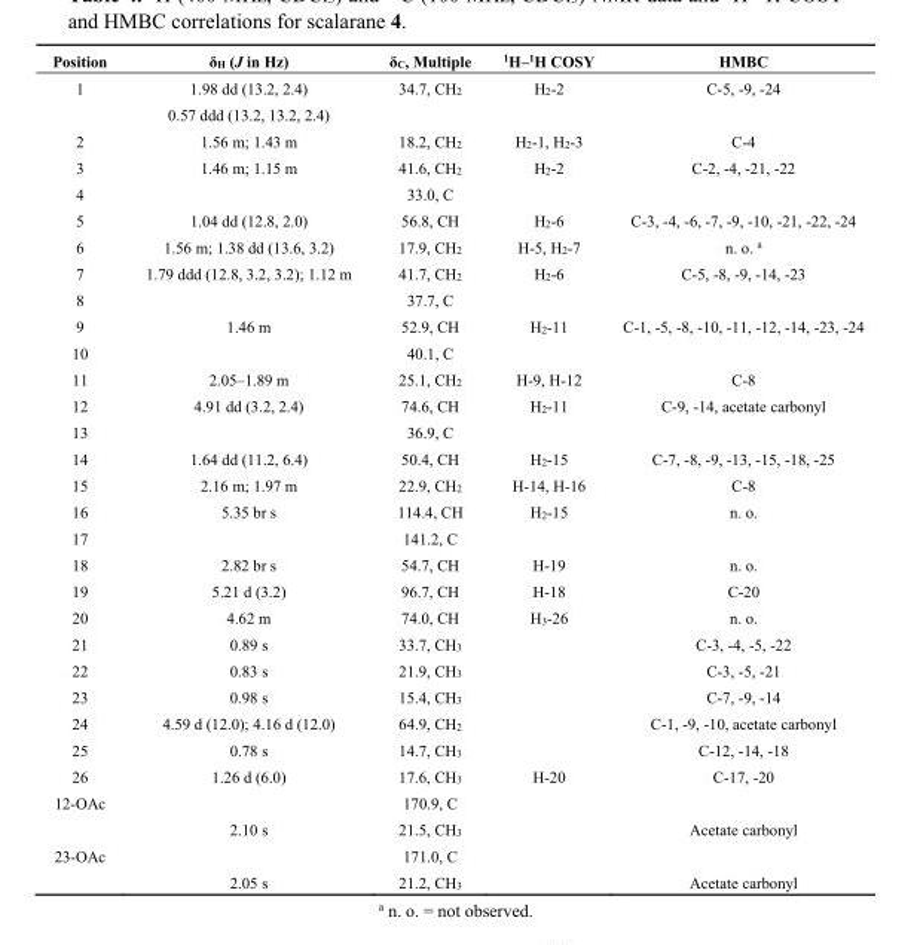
<table><thead><tr><td>Position</td><td>δ<sub>H</sub> (J in Hz)</td><td>δ<sub>C</sub>, Multiple</td><td><sup>1</sup>H–<sup>1</sup>H COSY</td><td>HMBC</td></tr></thead><tbody><tr><td rowspan="2">1</td><td>1.98 dd (13.2, 2.4)</td><td>34.7, CH<sub>2</sub></td><td>H<sub>2</sub>-2</td><td>C-5, -9, -24</td></tr><tr><td>0.57 ddd (13.2, 13.2, 2.4)</td><td></td><td></td><td></td></tr><tr><td>2</td><td>1.56 m; 1.43 m</td><td>18.2, CH<sub>2</sub></td><td>H<sub>2</sub>-1, H<sub>2</sub>-3</td><td>C-4</td></tr><tr><td>3</td><td>1.46 m; 1.15 m</td><td>41.6, CH<sub>2</sub></td><td>H<sub>2</sub>-2</td><td>C-2, -4, -21, -22</td></tr><tr><td>4</td><td></td><td>33.0, C</td><td></td><td></td></tr><tr><td>5</td><td>1.04 dd (12.8, 2.0)</td><td>56.8, CH</td><td>H<sub>2</sub>-6</td><td>C-3, -4, -6, -7, -9, -10, -21, -22, -24</td></tr><tr><td>6</td><td>1.56 m; 1.38 dd (13.6, 3.2)</td><td>17.9, CH<sub>2</sub></td><td>H-5, H<sub>2</sub>-7</td><td>n. o. <sup>a</sup></td></tr><tr><td>7</td><td>1.79 ddd (12.8, 3.2, 3.2); 1.12 m</td><td>41.7, CH<sub>2</sub></td><td>H<sub>2</sub>-6</td><td>C-5, -8, -9, -14, -23</td></tr><tr><td>8</td><td></td><td>37.7, C</td><td></td><td></td></tr><tr><td>9</td><td>1.46 m</td><td>52.9, CH</td><td>H<sub>2</sub>-11</td><td>C-1, -5, -8, -10, -11, -12, -14, -23, -24</td></tr><tr><td>10</td><td></td><td>40.1, C</td><td></td><td></td></tr><tr><td>11</td><td>2.05–1.89 m</td><td>25.1, CH<sub>2</sub></td><td>H-9, H-12</td><td>C-8</td></tr><tr><td>12</td><td>4.91 dd (3.2, 2.4)</td><td>74.6, CH</td><td>H<sub>2</sub>-11</td><td>C-9, -14, acetate carbonyl</td></tr><tr><td>13</td><td></td><td>36.9, C</td><td></td><td></td></tr><tr><td>14</td><td>1.64 dd (11.2, 6.4)</td><td>50.4, CH</td><td>H<sub>2</sub>-15</td><td>C-7, -8, -9, -13, -15, -18, -25</td></tr><tr><td>15</td><td>2.16 m; 1.97 m</td><td>22.9, CH<sub>2</sub></td><td>H-14, H-16</td><td>C-8</td></tr><tr><td>16</td><td>5.35 br s</td><td>114.4, CH</td><td>H<sub>2</sub>-15</td><td>n. o.</td></tr><tr><td>17</td><td></td><td>141.2, C</td><td></td><td></td></tr><tr><td>18</td><td>2.82 br s</td><td>54.7, CH</td><td>H-19</td><td>n. o.</td></tr><tr><td>19</td><td>5.21 d (3.2)</td><td>96.7, CH</td><td>H-18</td><td>C-20</td></tr><tr><td>20</td><td>4.62 m</td><td>74.0, CH</td><td>H<sub>3</sub>-26</td><td>n. o.</td></tr><tr><td>21</td><td>0.89 s</td><td>33.7, CH<sub>3</sub></td><td></td><td>C-3, -4, -5, -22</td></tr><tr><td>22</td><td>0.83 s</td><td>21.9, CH<sub>3</sub></td><td></td><td>C-3, -5, -21</td></tr><tr><td>23</td><td>0.98 s</td><td>15.4, CH<sub>3</sub></td><td></td><td>C-7, -9, -14</td></tr><tr><td>24</td><td>4.59 d (12.0); 4.16 d (12.0)</td><td>64.9, CH<sub>2</sub></td><td></td><td>C-1, -9, -10, acetate carbonyl</td></tr><tr><td>25</td><td>0.78 s</td><td>14.7, CH<sub>3</sub></td><td></td><td>C-12, -14, -18</td></tr><tr><td>26</td><td>1.26 d (6.0)</td><td>17.6, CH<sub>3</sub></td><td>H-20</td><td>C-17, -20</td></tr><tr><td rowspan="2">12-OAc</td><td></td><td>170.9, C</td><td></td><td></td></tr><tr><td>2.10 s</td><td>21.5, CH<sub>3</sub></td><td></td><td>Acetate carbonyl</td></tr><tr><td rowspan="2">23-OAc</td><td></td><td>171.0, C</td><td></td><td></td></tr><tr><td>2.05 s</td><td>21.2, CH<sub>3</sub></td><td></td><td>Acetate carbonyl</td></tr></tbody></table>